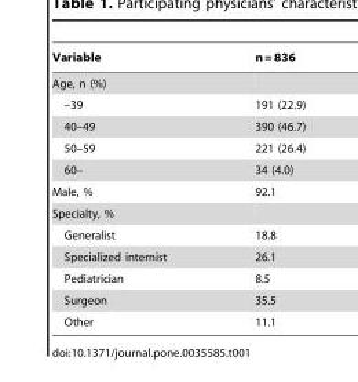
<table><thead><tr><td>Variable</td><td>n = 836</td></tr></thead><tbody><tr><td colspan="2">Age, n (%)</td></tr><tr><td>–39</td><td>191 (22.9)</td></tr><tr><td>40–49</td><td>390 (46.7)</td></tr><tr><td>50–59</td><td>221 (26.4)</td></tr><tr><td>60–</td><td>34 (4.0)</td></tr><tr><td>Male, %</td><td>92.1</td></tr><tr><td colspan="2">Specialty, %</td></tr><tr><td>Generalist</td><td>18.8</td></tr><tr><td>Specialized internist</td><td>26.1</td></tr><tr><td>Pediatrician</td><td>8.5</td></tr><tr><td>Surgeon</td><td>35.5</td></tr><tr><td>Other</td><td>11.1</td></tr></tbody></table>